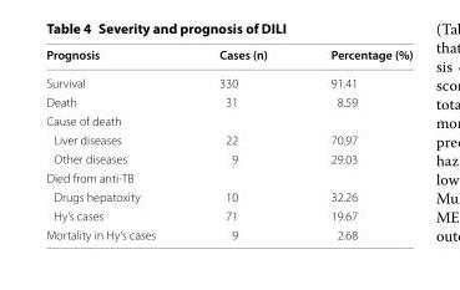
<table><thead><tr><td>Prognosis</td><td>Cases (n)</td><td>Percentage (%)</td></tr></thead><tbody><tr><td>Survival</td><td>330</td><td>91.41</td></tr><tr><td>Death</td><td>31</td><td>8.59</td></tr><tr><td colspan="3">Cause of death</td></tr><tr><td>Liver diseases</td><td>22</td><td>70.97</td></tr><tr><td>Other diseases</td><td>9</td><td>29.03</td></tr><tr><td colspan="3">Died from anti-TB</td></tr><tr><td>Drugs hepatoxity</td><td>10</td><td>32.26</td></tr><tr><td>Hy’s cases</td><td>71</td><td>19.67</td></tr><tr><td>Mortality in Hy’s cases</td><td>9</td><td>2.68</td></tr></tbody></table>